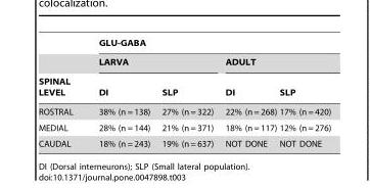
<table><thead><tr><td rowspan="3">SPINAL LEVEL</td><td colspan="4">GLU-GABA</td></tr><tr><td colspan="2">LARVA</td><td colspan="2">ADULT</td></tr><tr><td>DI</td><td>SLP</td><td>DI</td><td>SLP</td></tr></thead><tbody><tr><td>ROSTRAL</td><td>38% (n = 138)</td><td>27% (n = 322)</td><td>22% (n = 268)</td><td>17% (n = 420)</td></tr><tr><td>MEDIAL</td><td>28% (n = 144)</td><td>21% (n = 371)</td><td>18% (n = 117)</td><td>12% (n = 276)</td></tr><tr><td>CAUDAL</td><td>18% (n = 243)</td><td>19% (n = 637)</td><td>NOT DONE</td><td>NOT DONE</td></tr></tbody></table>